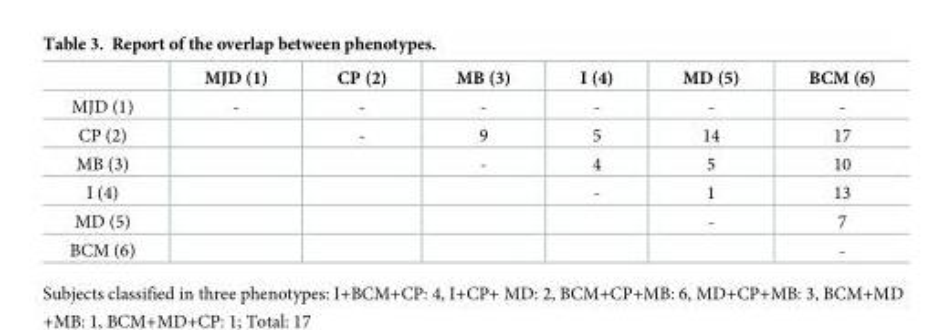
<table><thead><tr><td></td><td>MJD (1)</td><td>CP (2)</td><td>MB (3)</td><td>I (4)</td><td>MD (5)</td><td>BCM (6)</td></tr></thead><tbody><tr><td>MJD (1)</td><td>-</td><td>-</td><td>-</td><td>-</td><td>-</td><td>-</td></tr><tr><td>CP (2)</td><td></td><td>-</td><td>9</td><td>5</td><td>14</td><td>17</td></tr><tr><td>MB (3)</td><td></td><td></td><td>-</td><td>4</td><td>5</td><td>10</td></tr><tr><td>I (4)</td><td></td><td></td><td></td><td>-</td><td>1</td><td>13</td></tr><tr><td>MD (5)</td><td></td><td></td><td></td><td></td><td>-</td><td>7</td></tr><tr><td>BCM (6)</td><td></td><td></td><td></td><td></td><td></td><td>-</td></tr></tbody></table>